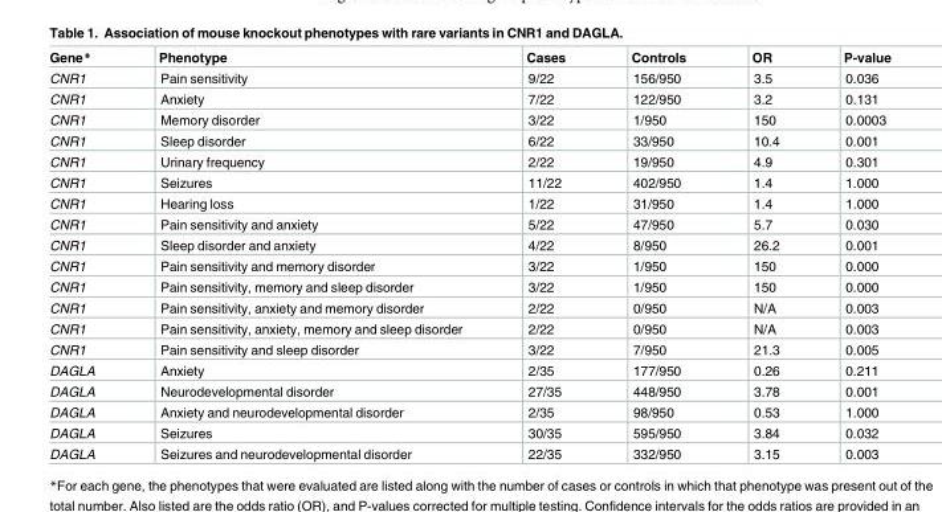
<table><thead><tr><td>Gene*</td><td>Phenotype</td><td>Cases</td><td>Controls</td><td>OR</td><td>P-value</td></tr></thead><tbody><tr><td>CNR1</td><td>Pain sensitivity</td><td>9/22</td><td>156/950</td><td>3.5</td><td>0.036</td></tr><tr><td>CNR1</td><td>Anxiety</td><td>7/22</td><td>122/950</td><td>3.2</td><td>0.131</td></tr><tr><td>CNR1</td><td>Memory disorder</td><td>3/22</td><td>1/950</td><td>150</td><td>0.0003</td></tr><tr><td>CNR1</td><td>Sleep disorder</td><td>6/22</td><td>33/950</td><td>10.4</td><td>0.001</td></tr><tr><td>CNR1</td><td>Urinary frequency</td><td>2/22</td><td>19/950</td><td>4.9</td><td>0.301</td></tr><tr><td>CNR1</td><td>Seizures</td><td>11/22</td><td>402/950</td><td>1.4</td><td>1.000</td></tr><tr><td>CNR1</td><td>Hearing loss</td><td>1/22</td><td>31/950</td><td>1.4</td><td>1.000</td></tr><tr><td>CNR1</td><td>Pain sensitivity and anxiety</td><td>5/22</td><td>47/950</td><td>5.7</td><td>0.030</td></tr><tr><td>CNR1</td><td>Sleep disorder and anxiety</td><td>4/22</td><td>8/950</td><td>26.2</td><td>0.001</td></tr><tr><td>CNR1</td><td>Pain sensitivity and memory disorder</td><td>3/22</td><td>1/950</td><td>150</td><td>0.000</td></tr><tr><td>CNR1</td><td>Pain sensitivity, memory and sleep disorder</td><td>3/22</td><td>1/950</td><td>150</td><td>0.000</td></tr><tr><td>CNR1</td><td>Pain sensitivity, anxiety and memory disorder</td><td>2/22</td><td>0/950</td><td>N/A</td><td>0.003</td></tr><tr><td>CNR1</td><td>Pain sensitivity, anxiety, memory and sleep disorder</td><td>2/22</td><td>0/950</td><td>N/A</td><td>0.003</td></tr><tr><td>CNR1</td><td>Pain sensitivity and sleep disorder</td><td>3/22</td><td>7/950</td><td>21.3</td><td>0.005</td></tr><tr><td>DAGLA</td><td>Anxiety</td><td>2/35</td><td>177/950</td><td>0.26</td><td>0.211</td></tr><tr><td>DAGLA</td><td>Neurodevelopmental disorder</td><td>27/35</td><td>448/950</td><td>3.78</td><td>0.001</td></tr><tr><td>DAGLA</td><td>Anxiety and neurodevelopmental disorder</td><td>2/35</td><td>98/950</td><td>0.53</td><td>1.000</td></tr><tr><td>DAGLA</td><td>Seizures</td><td>30/35</td><td>595/950</td><td>3.84</td><td>0.032</td></tr><tr><td>DAGLA</td><td>Seizures and neurodevelopmental disorder</td><td>22/35</td><td>332/950</td><td>3.15</td><td>0.003</td></tr></tbody></table>